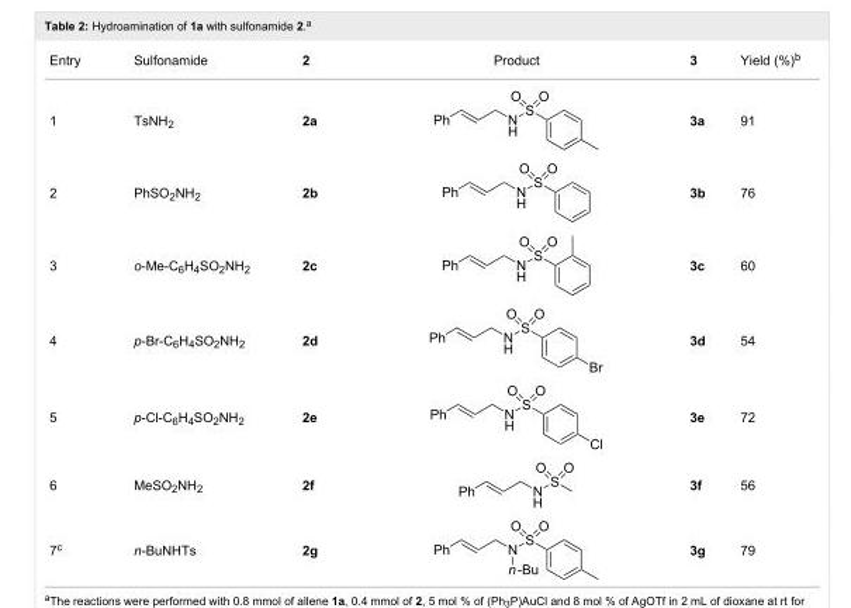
<table><tbody><tr><td>Entry</td><td>Sulfonamide</td><td>2</td><td>Product</td><td>3</td><td>Yield (%)<sup>b</sup></td></tr><tr><td>1</td><td>TsNH<sub>2</sub></td><td>2a</td><td></td><td>3a</td><td>91</td></tr><tr><td>2</td><td>PhSO<sub>2</sub>NH<sub>2</sub></td><td>2b</td><td></td><td>3b</td><td>76</td></tr><tr><td>3</td><td>o-Me-C<sub>6</sub>H<sub>4</sub>SO<sub>2</sub>NH<sub>2</sub></td><td>2c</td><td></td><td>3c</td><td>60</td></tr><tr><td>4</td><td>p-Br-C<sub>6</sub>H<sub>4</sub>SO<sub>2</sub>NH<sub>2</sub></td><td>2d</td><td></td><td>3d</td><td>54</td></tr><tr><td>5</td><td>p-Cl-C<sub>6</sub>H<sub>4</sub>SO<sub>2</sub>NH<sub>2</sub></td><td>2e</td><td></td><td>3e</td><td>72</td></tr><tr><td>6</td><td>MeSO<sub>2</sub>NH<sub>2</sub></td><td>2f</td><td></td><td>3f</td><td>56</td></tr><tr><td>7<sup>c</sup></td><td>n-BuNHTs</td><td>2g</td><td></td><td>3g</td><td>79</td></tr></tbody></table>